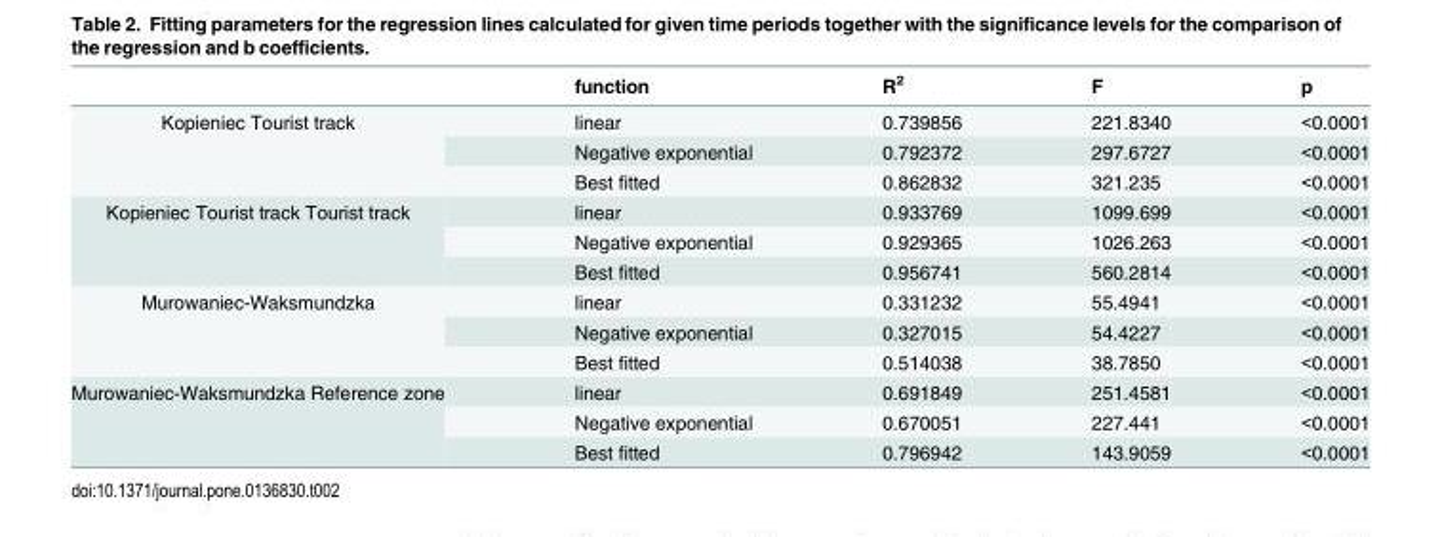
<table><thead><tr><td></td><td>function</td><td>R<sup>2</sup></td><td>F</td><td>p</td></tr></thead><tbody><tr><td rowspan="3">Kopieniec Tourist track</td><td>linear</td><td>0.739856</td><td>221.8340</td><td>&lt;0.0001</td></tr><tr><td>Negative exponential</td><td>0.792372</td><td>297.6727</td><td>&lt;0.0001</td></tr><tr><td>Best fitted</td><td>0.862832</td><td>321.235</td><td>&lt;0.0001</td></tr><tr><td rowspan="3">Kopieniec Tourist track Tourist track</td><td>linear</td><td>0.933769</td><td>1099.699</td><td>&lt;0.0001</td></tr><tr><td>Negative exponential</td><td>0.929365</td><td>1026.263</td><td>&lt;0.0001</td></tr><tr><td>Best fitted</td><td>0.956741</td><td>560.2814</td><td>&lt;0.0001</td></tr><tr><td rowspan="3">Murowaniec-Waksmundzka</td><td>linear</td><td>0.331232</td><td>55.4941</td><td>&lt;0.0001</td></tr><tr><td>Negative exponential</td><td>0.327015</td><td>54.4227</td><td>&lt;0.0001</td></tr><tr><td>Best fitted</td><td>0.514038</td><td>38.7850</td><td>&lt;0.0001</td></tr><tr><td rowspan="3">Murowaniec-Waksmundzka Reference zone</td><td>linear</td><td>0.691849</td><td>251.4581</td><td>&lt;0.0001</td></tr><tr><td>Negative exponential</td><td>0.670051</td><td>227.441</td><td>&lt;0.0001</td></tr><tr><td>Best fitted</td><td>0.796942</td><td>143.9059</td><td>&lt;0.0001</td></tr></tbody></table>